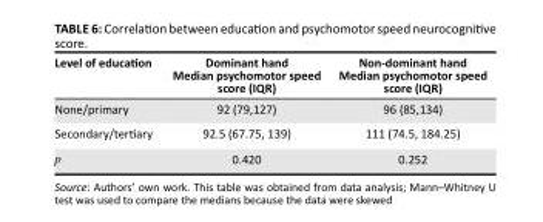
<table><thead><tr><td>Level of education</td><td>Dominant hand Median psychomotor speed score (IQR)</td><td>Non-dominant hand Median psychomotor speed score (IQR)</td></tr></thead><tbody><tr><td>None/primary</td><td>92 (79,127)</td><td>96 (85,134)</td></tr><tr><td>Secondary/tertiary</td><td>92.5 (67.75, 139)</td><td>111 (74.5, 184.25)</td></tr><tr><td>p</td><td>0.420</td><td>0.252</td></tr></tbody></table>